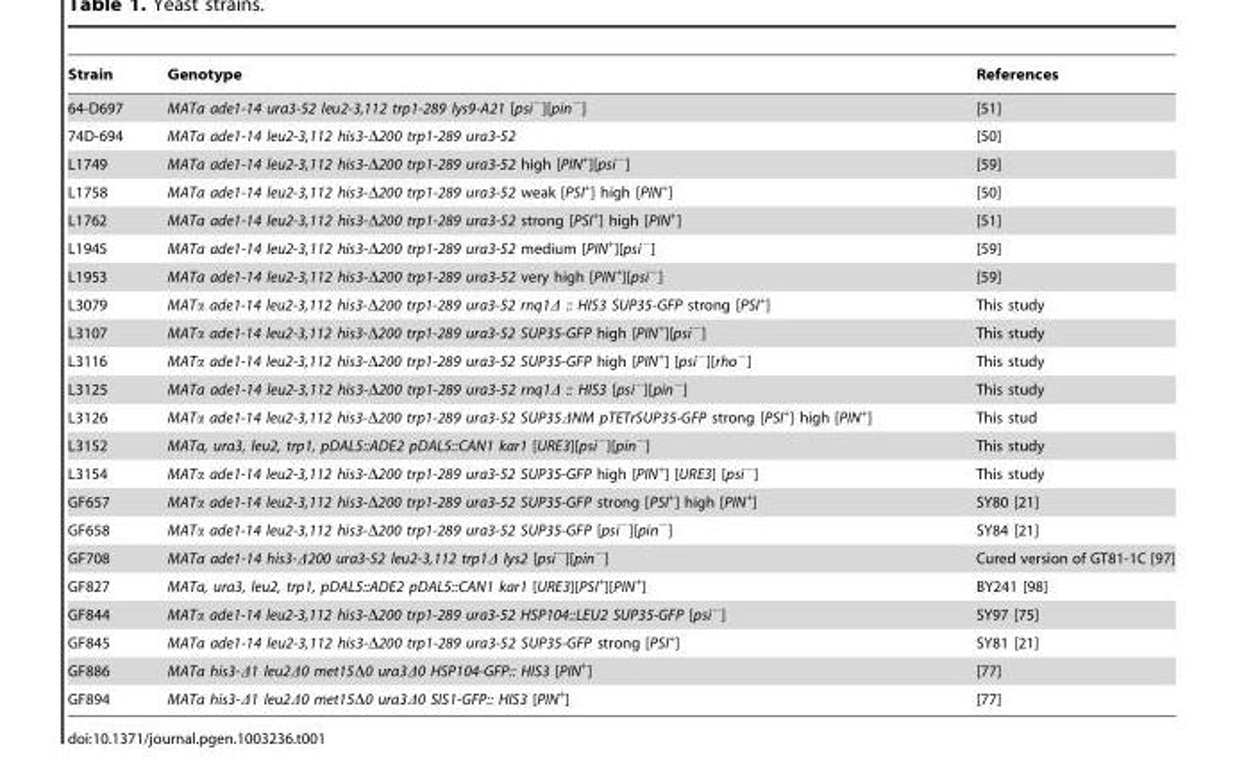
<table><thead><tr><td>Strain</td><td>Genotype</td><td>References</td></tr></thead><tbody><tr><td>64-D697</td><td>MATa ade1-14 ura3-52 leu2-3,112 trp1-289 lys9-A21 [psi<sup>−</sup>][pin<sup>−</sup>]</td><td>[51]</td></tr><tr><td>74D-694</td><td>MATa ade1-14 leu2-3,112 his3-Δ200 trp1-289 ura3-52</td><td>[50]</td></tr><tr><td>L1749</td><td>MATa ade1-14 leu2-3,112 his3-Δ200 trp1-289 ura3-52 high [PIN<sup>+</sup>][psi<sup>−</sup>]</td><td>[59]</td></tr><tr><td>L1758</td><td>MATa ade1-14 leu2-3,112 his3-Δ200 trp1-289 ura3-52 weak [PSI<sup>+</sup>] high [PIN<sup>+</sup>]</td><td>[50]</td></tr><tr><td>L1762</td><td>MATa ade1-14 leu2-3,112 his3-Δ200 trp1-289 ura3-52 strong [PSI<sup>+</sup>] high [PIN<sup>+</sup>]</td><td>[51]</td></tr><tr><td>L1945</td><td>MATa ade1-14 leu2-3,112 his3-Δ200 trp1-289 ura3-52 medium [PIN<sup>+</sup>][psi<sup>−</sup>]</td><td>[59]</td></tr><tr><td>L1953</td><td>MATa ade1-14 leu2-3,112 his3-Δ200 trp1-289 ura3-52 very high [PIN<sup>+</sup>][psi<sup>−</sup>]</td><td>[59]</td></tr><tr><td>L3079</td><td>MATα ade1-14 leu2-3,112 his3-Δ200 trp1-289 ura3-52 rnq1Δ :: HIS3 SUP35-GFP strong [PSI<sup>+</sup>]</td><td>This study</td></tr><tr><td>L3107</td><td>MATα ade1-14 leu2-3,112 his3-Δ200 trp1-289 ura3-52 SUP35-GFP high [PIN<sup>+</sup>][psi<sup>−</sup>]</td><td>This study</td></tr><tr><td>L3116</td><td>MATα ade1-14 leu2-3,112 his3-Δ200 trp1-289 ura3-52 SUP35-GFP high [PIN<sup>+</sup>] [psi<sup>−</sup>][rho<sup>−</sup>]</td><td>This study</td></tr><tr><td>L3125</td><td>MATa ade1-14 leu2-3,112 his3-Δ200 trp1-289 ura3-52 rnq1Δ :: HIS3 [psi<sup>−</sup>][pin<sup>−</sup>]</td><td>This study</td></tr><tr><td>L3126</td><td>MATα ade1-14 leu2-3,112 his3-Δ200 trp1-289 ura3-52 SUP35ΔNM pTETrSUP35-GFP strong [PSI<sup>+</sup>] high [PIN<sup>+</sup>]</td><td>This stud</td></tr><tr><td>L3152</td><td>MATa, ura3, leu2, trp1, pDAL5::ADE2 pDAL5::CAN1 kar1 [URE3][psi<sup>−</sup>][pin<sup>−</sup>]</td><td>This study</td></tr><tr><td>L3154</td><td>MATα ade1-14 leu2-3,112 his3-Δ200 trp1-289 ura3-52 SUP35-GFP high [PIN<sup>+</sup>] [URE3] [psi<sup>−</sup>]</td><td>This study</td></tr><tr><td>GF657</td><td>MATα ade1-14 leu2-3,112 his3-Δ200 trp1-289 ura3-52 SUP35-GFP strong [PSI<sup>+</sup>] high [PIN<sup>+</sup>]</td><td>SY80 [21]</td></tr><tr><td>GF658</td><td>MATα ade1-14 leu2-3,112 his3-Δ200 trp1-289 ura3-52 SUP35-GFP [psi<sup>−</sup>][pin<sup>−</sup>]</td><td>SY84 [21]</td></tr><tr><td>GF708</td><td>MATa ade1-14 his3-Δ200 ura3-52 leu2-3,112 trp1Δ lys2 [psi<sup>−</sup>][pin<sup>−</sup>]</td><td>Cured version of GT81-1C [97]</td></tr><tr><td>GF827</td><td>MATa, ura3, leu2, trp1, pDAL5::ADE2 pDAL5::CAN1 kar1 [URE3][PSI<sup>+</sup>][PIN<sup>+</sup>]</td><td>BY241 [98]</td></tr><tr><td>GF844</td><td>MATα ade1-14 leu2-3,112 his3-Δ200 trp1-289 ura3-52 HSP104::LEU2 SUP35-GFP [psi<sup>−</sup>]</td><td>SY97 [75]</td></tr><tr><td>GF845</td><td>MATa ade1-14 leu2-3,112 his3-Δ200 trp1-289 ura3-52 SUP35-GFP strong [PSI<sup>+</sup>]</td><td>SY81 [21]</td></tr><tr><td>GF886</td><td>MATa his3-Δ1 leu2Δ0 met15Δ0 ura3Δ0 HSP104-GFP:: HIS3 [PIN<sup>+</sup>]</td><td>[77]</td></tr><tr><td>GF894</td><td>MATa his3-Δ1 leu2Δ0 met15Δ0 ura3Δ0 SIS1-GFP:: HIS3 [PIN<sup>+</sup>]</td><td>[77]</td></tr></tbody></table>